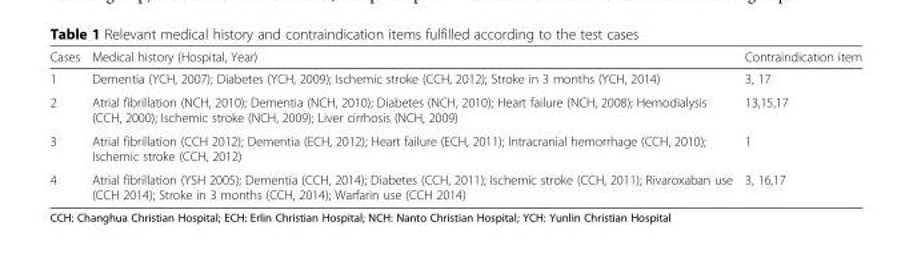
<table><thead><tr><td>Cases</td><td>Medical history (Hospital, Year)</td><td>Contraindication item</td></tr></thead><tbody><tr><td>1</td><td>Dementia (YCH, 2007); Diabetes (YCH, 2009); Ischemic stroke (CCH, 2012); Stroke in 3 months (YCH, 2014)</td><td>3, 17</td></tr><tr><td>2</td><td>Atrial fibrillation (NCH, 2010); Dementia (NCH, 2010); Diabetes (NCH, 2010); Heart failure (NCH, 2008); Hemodialysis (CCH, 2000); Ischemic stroke (NCH, 2009); Liver cirrhosis (NCH, 2009)</td><td>13,15,17</td></tr><tr><td>3</td><td>Atrial fibrillation (CCH 2012); Dementia (ECH, 2012); Heart failure (ECH, 2011); Intracranial hemorrhage (CCH, 2010); Ischemic stroke (CCH, 2012)</td><td>1</td></tr><tr><td>4</td><td>Atrial fibrillation (YSH 2005); Dementia (CCH, 2014); Diabetes (CCH, 2011); Ischemic stroke (CCH, 2011); Rivaroxaban use (CCH 2014); Stroke in 3 months (CCH, 2014); Warfarin use (CCH 2014)</td><td>3, 16,17</td></tr></tbody></table>